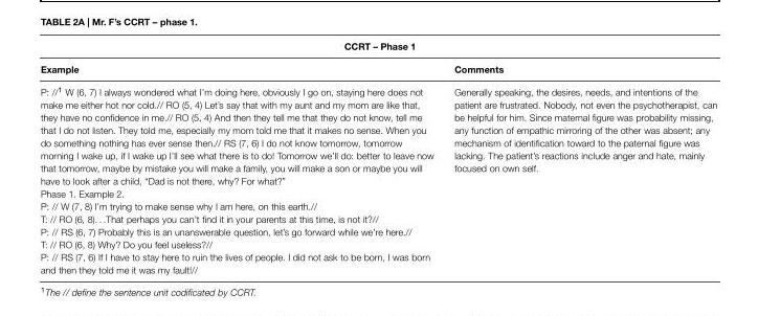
<table><thead><tr><td colspan="2">CCRT – Phase 1</td></tr><tr><td>Example</td><td>Comments</td></tr></thead><tbody><tr><td>P: //<sup>1</sup> W (6, 7) I always wondered what I’m doing here, obviously I go on, staying here does not make me either hot nor cold.// RO (5, 4) Let’s say that with my aunt and my mom are like that, they have no confidence in me.// RO (5, 4) And then they tell me that they do not know, tell me that I do not listen. They told me, especially my mom told me that it makes no sense. When you do something nothing has ever sense then.// RS (7, 6) I do not know tomorrow, tomorrow morning I wake up, if I wake up I’ll see what there is to do! Tomorrow we’ll do: better to leave now that tomorrow, maybe by mistake you will make a family, you will make a son or maybe you will have to look after a child, “Dad is not there, why? For what?” Phase 1. Example 2. P: // W (7, 8) I’m trying to make sense why I am here, on this earth.// T: // RO (6, 8). . .That perhaps you can’t find it in your parents at this time, is not it?// P: // RS (6, 7) Probably this is an unanswerable question, let’s go forward while we’re here.// T: // RO (6, 8) Why? Do you feel useless?// P: // RS (7, 6) If I have to stay here to ruin the lives of people. I did not ask to be born, I was born and then they told me it was my fault!//</td><td>Generally speaking, the desires, needs, and intentions of the patient are frustrated. Nobody, not even the psychotherapist, can be helpful for him. Since maternal figure was probability missing, any function of empathic mirroring of the other was absent; any mechanism of identification toward to the paternal figure was lacking. The patient’s reactions include anger and hate, mainly focused on own self.</td></tr></tbody></table>